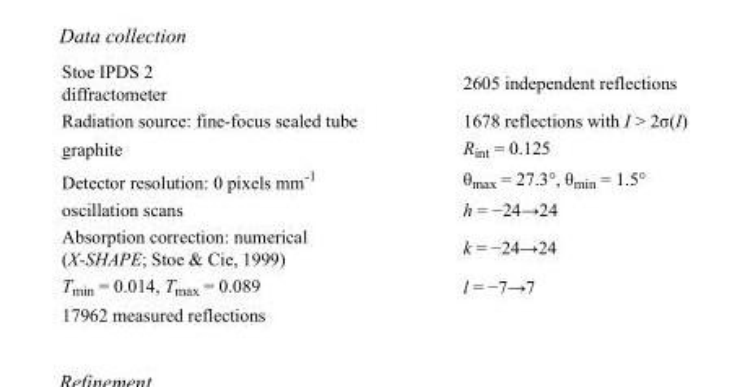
<table><tbody><tr><td>Stoe IPDS 2 diffractometer</td><td>2605 independent reflections</td></tr><tr><td>Radiation source: fine-focus sealed tube</td><td>1678 reflections with I &gt; 2σ(I)</td></tr><tr><td>graphite</td><td>R<sub>int</sub> = 0.125</td></tr><tr><td>Detector resolution: 0 pixels mm<sup>-1</sup></td><td>θ<sub>max</sub> = 27.3°, θ<sub>min</sub> = 1.5°</td></tr><tr><td>oscillation scans</td><td>h = −24→24</td></tr><tr><td>Absorption correction: numerical (X-SHAPE; Stoe &amp; Cie, 1999)</td><td>k = −24→24</td></tr><tr><td>T<sub>min</sub> = 0.014, T<sub>max</sub> = 0.089</td><td>l = −7→7</td></tr><tr><td>17962 measured reflections</td><td></td></tr></tbody></table>